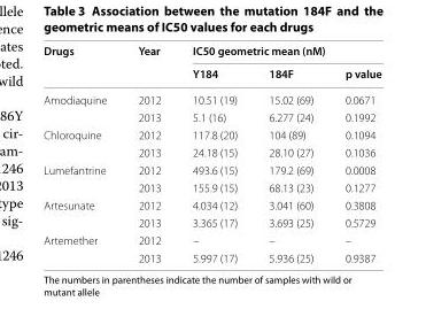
<table><thead><tr><td rowspan="2">Drugs</td><td rowspan="2">Year</td><td colspan="3">IC50 geometric mean (nM)</td></tr><tr><td>Y184</td><td>184F</td><td>p value</td></tr></thead><tbody><tr><td rowspan="2">Amodiaquine</td><td>2012</td><td>10.51 (19)</td><td>15.02 (69)</td><td>0.0671</td></tr><tr><td>2013</td><td>5.1 (16)</td><td>6.277 (24)</td><td>0.1992</td></tr><tr><td rowspan="2">Chloroquine</td><td>2012</td><td>117.8 (20)</td><td>104 (89)</td><td>0.1094</td></tr><tr><td>2013</td><td>24.18 (15)</td><td>28.10 (27)</td><td>0.1036</td></tr><tr><td rowspan="2">Lumefantrine</td><td>2012</td><td>493.6 (15)</td><td>179.2 (69)</td><td>0.0008</td></tr><tr><td>2013</td><td>155.9 (15)</td><td>68.13 (23)</td><td>0.1277</td></tr><tr><td rowspan="2">Artesunate</td><td>2012</td><td>4.034 (12)</td><td>3.041 (60)</td><td>0.3808</td></tr><tr><td>2013</td><td>3.365 (17)</td><td>3.693 (25)</td><td>0.5729</td></tr><tr><td rowspan="2">Artemether</td><td>2012</td><td>–</td><td>–</td><td>–</td></tr><tr><td>2013</td><td>5.997 (17)</td><td>5.936 (25)</td><td>0.9387</td></tr></tbody></table>